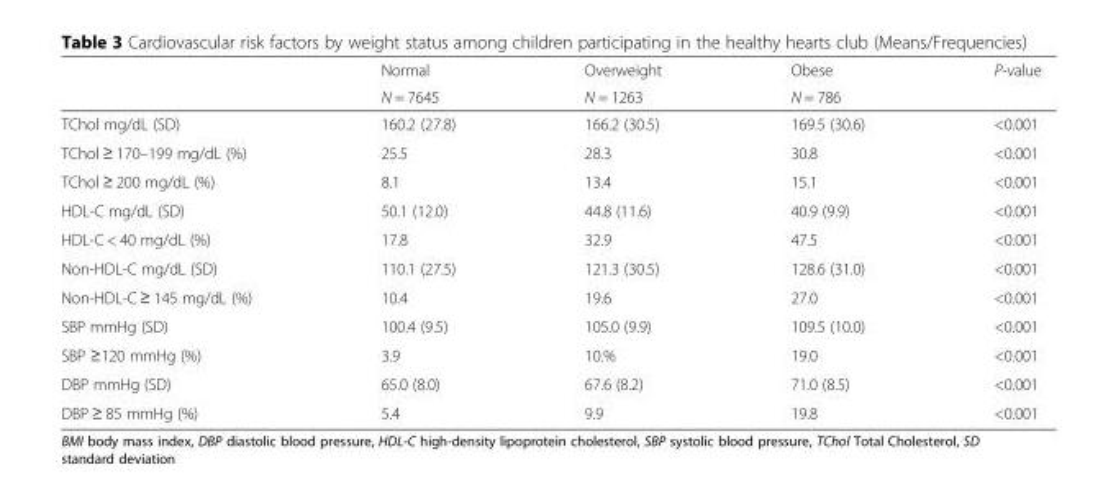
<table><thead><tr><td rowspan="2"></td><td rowspan="2">Normal N = 7645</td><td rowspan="2">Overweight N = 1263</td><td rowspan="2">Obese N = 786</td><td rowspan="2">P-value</td></tr><tr></tr></thead><tbody><tr><td>TChol mg/dL (SD)</td><td>160.2 (27.8)</td><td>166.2 (30.5)</td><td>169.5 (30.6)</td><td>&lt;0.001</td></tr><tr><td>TChol ≥ 170–199 mg/dL (%)</td><td>25.5</td><td>28.3</td><td>30.8</td><td>&lt;0.001</td></tr><tr><td>TChol ≥ 200 mg/dL (%)</td><td>8.1</td><td>13.4</td><td>15.1</td><td>&lt;0.001</td></tr><tr><td>HDL-C mg/dL (SD)</td><td>50.1 (12.0)</td><td>44.8 (11.6)</td><td>40.9 (9.9)</td><td>&lt;0.001</td></tr><tr><td>HDL-C &lt; 40 mg/dL (%)</td><td>17.8</td><td>32.9</td><td>47.5</td><td>&lt;0.001</td></tr><tr><td>Non-HDL-C mg/dL (SD)</td><td>110.1 (27.5)</td><td>121.3 (30.5)</td><td>128.6 (31.0)</td><td>&lt;0.001</td></tr><tr><td>Non-HDL-C ≥ 145 mg/dL (%)</td><td>10.4</td><td>19.6</td><td>27.0</td><td>&lt;0.001</td></tr><tr><td>SBP mmHg (SD)</td><td>100.4 (9.5)</td><td>105.0 (9.9)</td><td>109.5 (10.0)</td><td>&lt;0.001</td></tr><tr><td>SBP ≥120 mmHg (%)</td><td>3.9</td><td>10.%</td><td>19.0</td><td>&lt;0.001</td></tr><tr><td>DBP mmHg (SD)</td><td>65.0 (8.0)</td><td>67.6 (8.2)</td><td>71.0 (8.5)</td><td>&lt;0.001</td></tr><tr><td>DBP ≥ 85 mmHg (%)</td><td>5.4</td><td>9.9</td><td>19.8</td><td>&lt;0.001</td></tr></tbody></table>